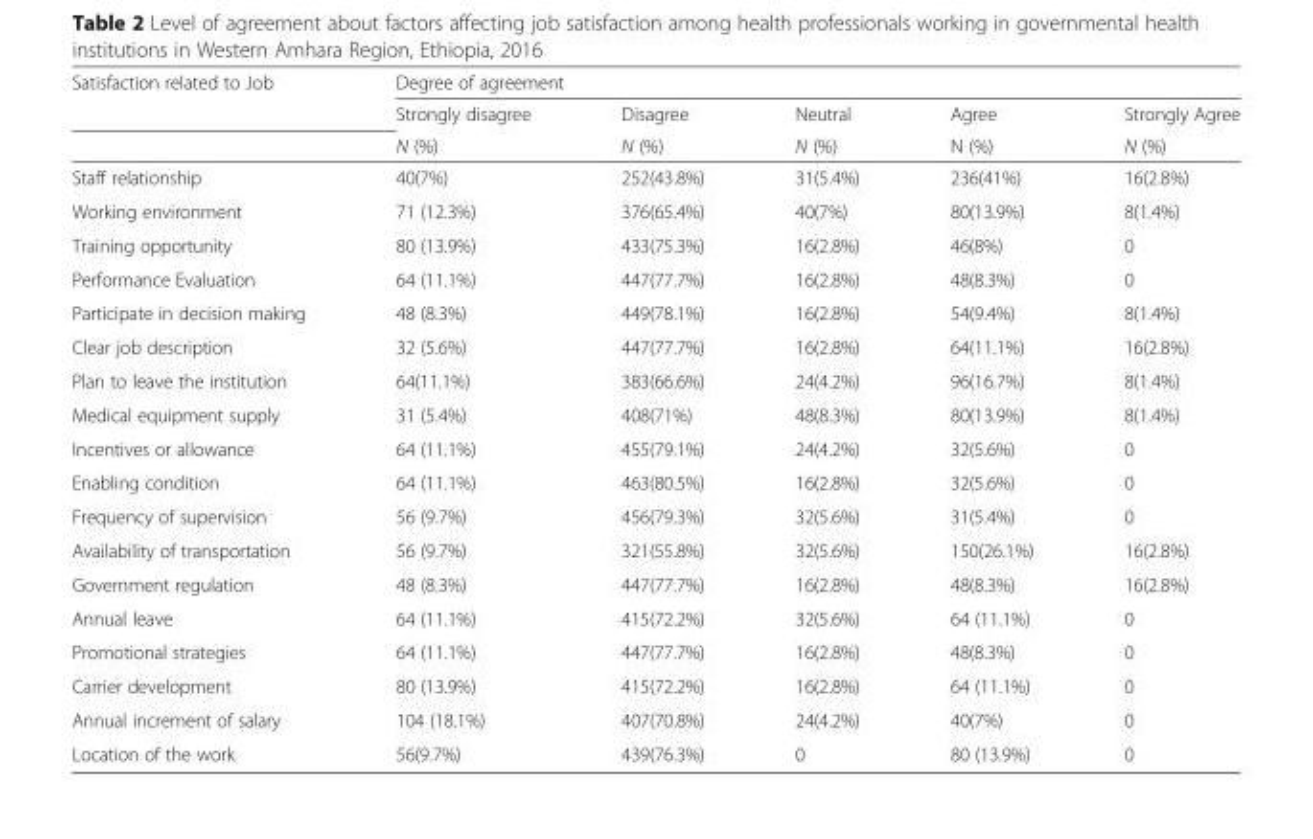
<table><thead><tr><td rowspan="3">Satisfaction related to Job</td><td colspan="5">Degree of agreement</td></tr><tr><td rowspan="2">Strongly disagree N (%)</td><td rowspan="2">Disagree N (%)</td><td rowspan="2">Neutral N (%)</td><td rowspan="2">Agree N (%)</td><td rowspan="2">Strongly Agree N (%)</td></tr><tr></tr></thead><tbody><tr><td>Staff relationship</td><td>40(7%)</td><td>252(43.8%)</td><td>31(5.4%)</td><td>236(41%)</td><td>16(2.8%)</td></tr><tr><td>Working environment</td><td>71 (12.3%)</td><td>376(65.4%)</td><td>40(7%)</td><td>80(13.9%)</td><td>8(1.4%)</td></tr><tr><td>Training opportunity</td><td>80 (13.9%)</td><td>433(75.3%)</td><td>16(2.8%)</td><td>46(8%)</td><td>0</td></tr><tr><td>Performance Evaluation</td><td>64 (11.1%)</td><td>447(77.7%)</td><td>16(2.8%)</td><td>48(8.3%)</td><td>0</td></tr><tr><td>Participate in decision making</td><td>48 (8.3%)</td><td>449(78.1%)</td><td>16(2.8%)</td><td>54(9.4%)</td><td>8(1.4%)</td></tr><tr><td>Clear job description</td><td>32 (5.6%)</td><td>447(77.7%)</td><td>16(2.8%)</td><td>64(11.1%)</td><td>16(2.8%)</td></tr><tr><td>Plan to leave the institution</td><td>64(11.1%)</td><td>383(66.6%)</td><td>24(4.2%)</td><td>96(16.7%)</td><td>8(1.4%)</td></tr><tr><td>Medical equipment supply</td><td>31 (5.4%)</td><td>408(71%)</td><td>48(8.3%)</td><td>80(13.9%)</td><td>8(1.4%)</td></tr><tr><td>Incentives or allowance</td><td>64 (11.1%)</td><td>455(79.1%)</td><td>24(4.2%)</td><td>32(5.6%)</td><td>0</td></tr><tr><td>Enabling condition</td><td>64 (11.1%)</td><td>463(80.5%)</td><td>16(2.8%)</td><td>32(5.6%)</td><td>0</td></tr><tr><td>Frequency of supervision</td><td>56 (9.7%)</td><td>456(79.3%)</td><td>32(5.6%)</td><td>31(5.4%)</td><td>0</td></tr><tr><td>Availability of transportation</td><td>56 (9.7%)</td><td>321(55.8%)</td><td>32(5.6%)</td><td>150(26.1%)</td><td>16(2.8%)</td></tr><tr><td>Government regulation</td><td>48 (8.3%)</td><td>447(77.7%)</td><td>16(2.8%)</td><td>48(8.3%)</td><td>16(2.8%)</td></tr><tr><td>Annual leave</td><td>64 (11.1%)</td><td>415(72.2%)</td><td>32(5.6%)</td><td>64 (11.1%)</td><td>0</td></tr><tr><td>Promotional strategies</td><td>64 (11.1%)</td><td>447(77.7%)</td><td>16(2.8%)</td><td>48(8.3%)</td><td>0</td></tr><tr><td>Carrier development</td><td>80 (13.9%)</td><td>415(72.2%)</td><td>16(2.8%)</td><td>64 (11.1%)</td><td>0</td></tr><tr><td>Annual increment of salary</td><td>104 (18.1%)</td><td>407(70.8%)</td><td>24(4.2%)</td><td>40(7%)</td><td>0</td></tr><tr><td>Location of the work</td><td>56(9.7%)</td><td>439(76.3%)</td><td>0</td><td>80 (13.9%)</td><td>0</td></tr></tbody></table>